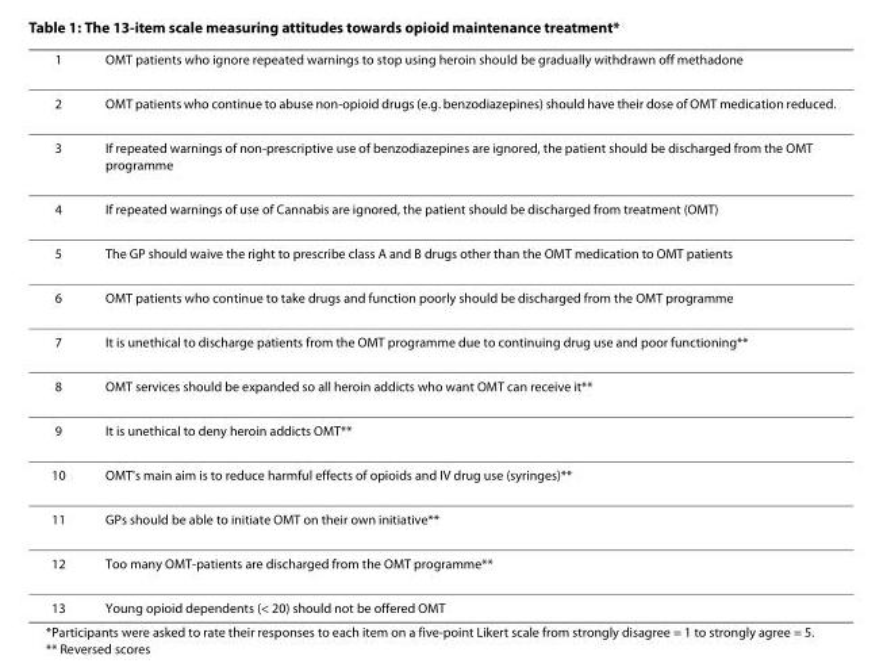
<table><thead><tr><td>1</td><td>OMT patients who ignore repeated warnings to stop using heroin should be gradually withdrawn off methadone</td></tr></thead><tbody><tr><td>2</td><td>OMT patients who continue to abuse non-opioid drugs (e.g. benzodiazepines) should have their dose of OMT medication reduced.</td></tr><tr><td>3</td><td>If repeated warnings of non-prescriptive use of benzodiazepines are ignored, the patient should be discharged from the OMT programme</td></tr><tr><td>4</td><td>If repeated warnings of use of Cannabis are ignored, the patient should be discharged from treatment (OMT)</td></tr><tr><td>5</td><td>The GP should waive the right to prescribe class A and B drugs other than the OMT medication to OMT patients</td></tr><tr><td>6</td><td>OMT patients who continue to take drugs and function poorly should be discharged from the OMT programme</td></tr><tr><td>7</td><td>It is unethical to discharge patients from the OMT programme due to continuing drug use and poor functioning**</td></tr><tr><td>8</td><td>OMT services should be expanded so all heroin addicts who want OMT can receive it**</td></tr><tr><td>9</td><td>It is unethical to deny heroin addicts OMT**</td></tr><tr><td>10</td><td>OMT&#x27;s main aim is to reduce harmful effects of opioids and IV drug use (syringes)**</td></tr><tr><td>11</td><td>GPs should be able to initiate OMT on their own initiative**</td></tr><tr><td>12</td><td>Too many OMT-patients are discharged from the OMT programme**</td></tr><tr><td>13</td><td>Young opioid dependents (&lt; 20) should not be offered OMT</td></tr></tbody></table>